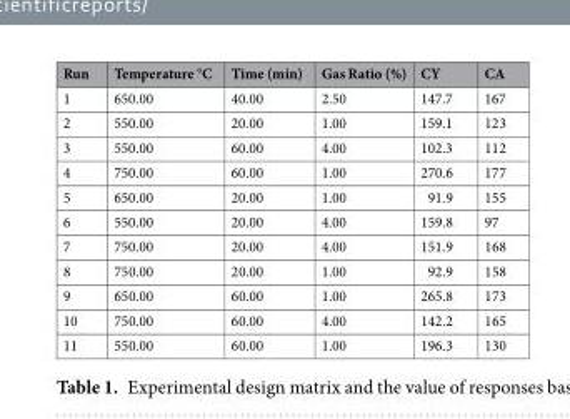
<table><thead><tr><td>Run</td><td>Temperature °C</td><td>Time (min)</td><td>Gas Ratio (%)</td><td>CY</td><td>CA</td></tr></thead><tbody><tr><td>1</td><td>650.00</td><td>40.00</td><td>2.50</td><td>147.7</td><td>167</td></tr><tr><td>2</td><td>550.00</td><td>20.00</td><td>1.00</td><td>159.1</td><td>123</td></tr><tr><td>3</td><td>550.00</td><td>60.00</td><td>4.00</td><td>102.3</td><td>112</td></tr><tr><td>4</td><td>750.00</td><td>60.00</td><td>1.00</td><td>270.6</td><td>177</td></tr><tr><td>5</td><td>650.00</td><td>20.00</td><td>1.00</td><td>91.9</td><td>155</td></tr><tr><td>6</td><td>550.00</td><td>20.00</td><td>4.00</td><td>159.8</td><td>97</td></tr><tr><td>7</td><td>750.00</td><td>20.00</td><td>4.00</td><td>151.9</td><td>168</td></tr><tr><td>8</td><td>750.00</td><td>20.00</td><td>1.00</td><td>92.9</td><td>158</td></tr><tr><td>9</td><td>650.00</td><td>60.00</td><td>1.00</td><td>265.8</td><td>173</td></tr><tr><td>10</td><td>750.00</td><td>60.00</td><td>4.00</td><td>142.2</td><td>165</td></tr><tr><td>11</td><td>550.00</td><td>60.00</td><td>1.00</td><td>196.3</td><td>130</td></tr></tbody></table>